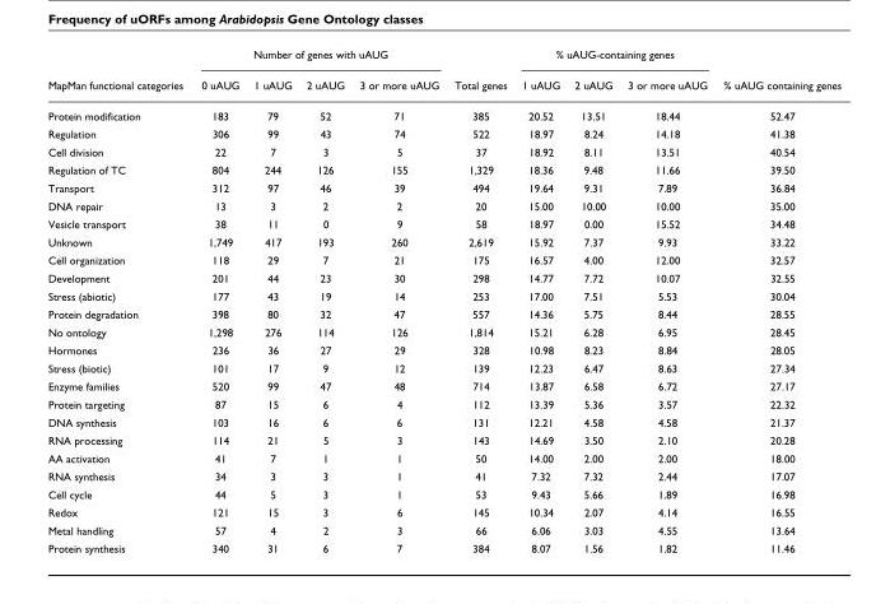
<table><thead><tr><td rowspan="2">MapMan functional categories</td><td colspan="4">Number of genes with uAUG</td><td rowspan="2">Total genes</td><td colspan="3">% uAUG-containing genes</td><td rowspan="2">% uAUG containing genes</td></tr><tr><td>0 uAUG</td><td>1 uAUG</td><td>2 uAUG</td><td>3 or more uAUG</td><td>1 uAUG</td><td>2 uAUG</td><td>3 or more uAUG</td></tr></thead><tbody><tr><td>Protein modification</td><td>183</td><td>79</td><td>52</td><td>71</td><td>385</td><td>20.52</td><td>13.51</td><td>18.44</td><td>52.47</td></tr><tr><td>Regulation</td><td>306</td><td>99</td><td>43</td><td>74</td><td>522</td><td>18.97</td><td>8.24</td><td>14.18</td><td>41.38</td></tr><tr><td>Cell division</td><td>22</td><td>7</td><td>3</td><td>5</td><td>37</td><td>18.92</td><td>8.11</td><td>13.51</td><td>40.54</td></tr><tr><td>Regulation of TC</td><td>804</td><td>244</td><td>126</td><td>155</td><td>1,329</td><td>18.36</td><td>9.48</td><td>11.66</td><td>39.50</td></tr><tr><td>Transport</td><td>312</td><td>97</td><td>46</td><td>39</td><td>494</td><td>19.64</td><td>9.31</td><td>7.89</td><td>36.84</td></tr><tr><td>DNA repair</td><td>13</td><td>3</td><td>2</td><td>2</td><td>20</td><td>15.00</td><td>10.00</td><td>10.00</td><td>35.00</td></tr><tr><td>Vesicle transport</td><td>38</td><td>11</td><td>0</td><td>9</td><td>58</td><td>18.97</td><td>0.00</td><td>15.52</td><td>34.48</td></tr><tr><td>Unknown</td><td>1,749</td><td>417</td><td>193</td><td>260</td><td>2,619</td><td>15.92</td><td>7.37</td><td>9.93</td><td>33.22</td></tr><tr><td>Cell organization</td><td>118</td><td>29</td><td>7</td><td>21</td><td>175</td><td>16.57</td><td>4.00</td><td>12.00</td><td>32.57</td></tr><tr><td>Development</td><td>201</td><td>44</td><td>23</td><td>30</td><td>298</td><td>14.77</td><td>7.72</td><td>10.07</td><td>32.55</td></tr><tr><td>Stress (abiotic)</td><td>177</td><td>43</td><td>19</td><td>14</td><td>253</td><td>17.00</td><td>7.51</td><td>5.53</td><td>30.04</td></tr><tr><td>Protein degradation</td><td>398</td><td>80</td><td>32</td><td>47</td><td>557</td><td>14.36</td><td>5.75</td><td>8.44</td><td>28.55</td></tr><tr><td>No ontology</td><td>1,298</td><td>276</td><td>114</td><td>126</td><td>1,814</td><td>15.21</td><td>6.28</td><td>6.95</td><td>28.45</td></tr><tr><td>Hormones</td><td>236</td><td>36</td><td>27</td><td>29</td><td>328</td><td>10.98</td><td>8.23</td><td>8.84</td><td>28.05</td></tr><tr><td>Stress (biotic)</td><td>101</td><td>17</td><td>9</td><td>12</td><td>139</td><td>12.23</td><td>6.47</td><td>8.63</td><td>27.34</td></tr><tr><td>Enzyme families</td><td>520</td><td>99</td><td>47</td><td>48</td><td>714</td><td>13.87</td><td>6.58</td><td>6.72</td><td>27.17</td></tr><tr><td>Protein targeting</td><td>87</td><td>15</td><td>6</td><td>4</td><td>112</td><td>13.39</td><td>5.36</td><td>3.57</td><td>22.32</td></tr><tr><td>DNA synthesis</td><td>103</td><td>16</td><td>6</td><td>6</td><td>131</td><td>12.21</td><td>4.58</td><td>4.58</td><td>21.37</td></tr><tr><td>RNA processing</td><td>114</td><td>21</td><td>5</td><td>3</td><td>143</td><td>14.69</td><td>3.50</td><td>2.10</td><td>20.28</td></tr><tr><td>AA activation</td><td>41</td><td>7</td><td>1</td><td>1</td><td>50</td><td>14.00</td><td>2.00</td><td>2.00</td><td>18.00</td></tr><tr><td>RNA synthesis</td><td>34</td><td>3</td><td>3</td><td>1</td><td>41</td><td>7.32</td><td>7.32</td><td>2.44</td><td>17.07</td></tr><tr><td>Cell cycle</td><td>44</td><td>5</td><td>3</td><td>1</td><td>53</td><td>9.43</td><td>5.66</td><td>1.89</td><td>16.98</td></tr><tr><td>Redox</td><td>121</td><td>15</td><td>3</td><td>6</td><td>145</td><td>10.34</td><td>2.07</td><td>4.14</td><td>16.55</td></tr><tr><td>Metal handling</td><td>57</td><td>4</td><td>2</td><td>3</td><td>66</td><td>6.06</td><td>3.03</td><td>4.55</td><td>13.64</td></tr><tr><td>Protein synthesis</td><td>340</td><td>31</td><td>6</td><td>7</td><td>384</td><td>8.07</td><td>1.56</td><td>1.82</td><td>11.46</td></tr></tbody></table>